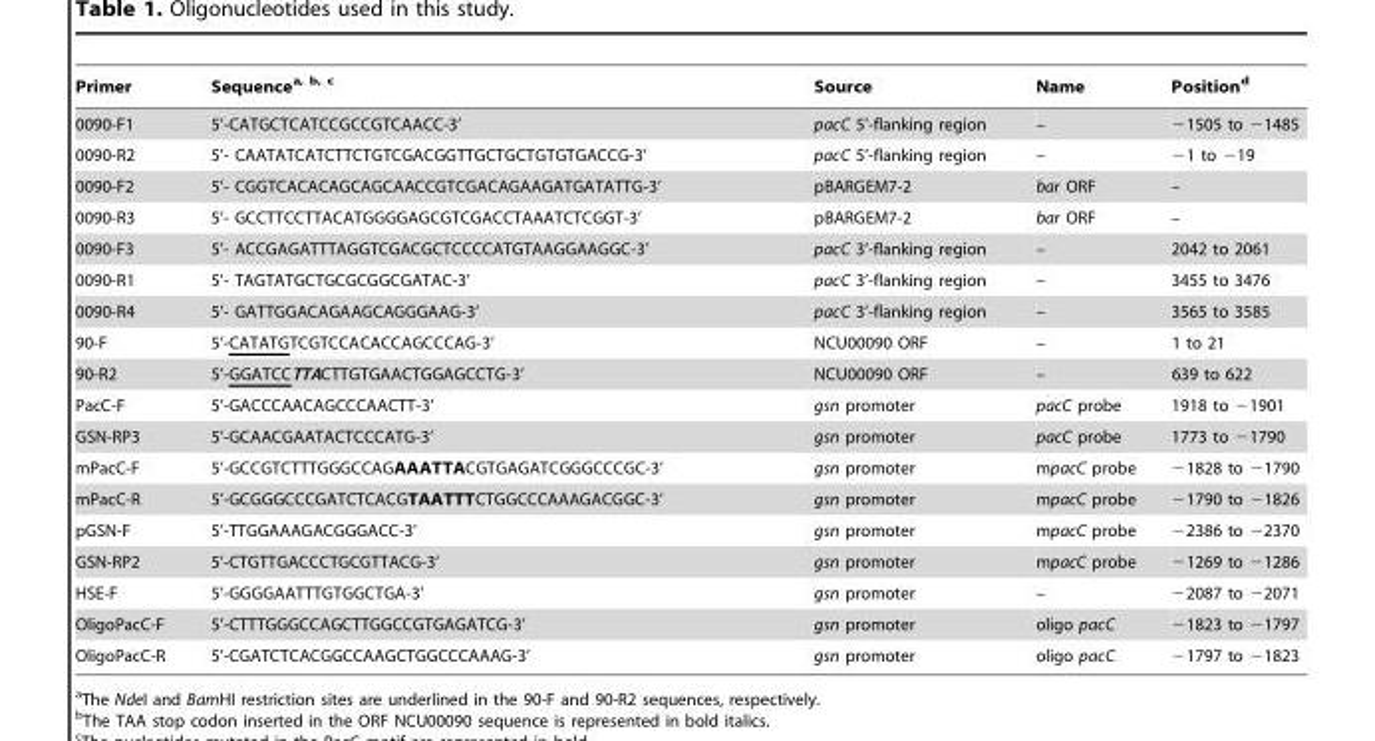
<table><thead><tr><td>Primer</td><td>Sequencea, b, c</td><td>Source</td><td>Name</td><td>Position<sup>d</sup></td></tr></thead><tbody><tr><td>0090-F1</td><td>5’-CATGCTCATCCGCCGTCAACC-3’</td><td>pacC 5’-flanking region</td><td>–</td><td>−1505 to −1485</td></tr><tr><td>0090-R2</td><td>5’- CAATATCATCTTCTGTCGACGGTTGCTGCTGTGTGACCG-3’</td><td>pacC 5’-flanking region</td><td>–</td><td>−1 to −19</td></tr><tr><td>0090-F2</td><td>5’- CGGTCACACAGCAGCAACCGTCGACAGAAGATGATATTG-3’</td><td>pBARGEM7-2</td><td>bar ORF</td><td>–</td></tr><tr><td>0090-R3</td><td>5’- GCCTTCCTTACATGGGGAGCGTCGACCTAAATCTCGGT-3’</td><td>pBARGEM7-2</td><td>bar ORF</td><td>–</td></tr><tr><td>0090-F3</td><td>5’- ACCGAGATTTAGGTCGACGCTCCCCATGTAAGGAAGGC-3’</td><td>pacC 3’-flanking region</td><td>–</td><td>2042 to 2061</td></tr><tr><td>0090-R1</td><td>5’- TAGTATGCTGCGCGGCGATAC-3’</td><td>pacC 3’-flanking region</td><td>–</td><td>3455 to 3476</td></tr><tr><td>0090-R4</td><td>5’- GATTGGACAGAAGCAGGGAAG-3’</td><td>pacC 3’-flanking region</td><td>–</td><td>3565 to 3585</td></tr><tr><td>90-F</td><td>5’-CATATGTCGTCCACACCAGCCCAG-3’</td><td>NCU00090 ORF</td><td>–</td><td>1 to 21</td></tr><tr><td>90-R2</td><td>5’-GGATCCTTACTTGTGAACTGGAGCCTG-3’</td><td>NCU00090 ORF</td><td>–</td><td>639 to 622</td></tr><tr><td>PacC-F</td><td>5’-GACCCAACAGCCCAACTT-3’</td><td>gsn promoter</td><td>pacC probe</td><td>1918 to −1901</td></tr><tr><td>GSN-RP3</td><td>5’-GCAACGAATACTCCCATG-3’</td><td>gsn promoter</td><td>pacC probe</td><td>1773 to −1790</td></tr><tr><td>mPacC-F</td><td>5’-GCCGTCTTTGGGCCAGAAATTACGTGAGATCGGGCCCGC-3’</td><td>gsn promoter</td><td>mpacC probe</td><td>−1828 to −1790</td></tr><tr><td>mPacC-R</td><td>5’-GCGGGCCCGATCTCACGTAATTTCTGGCCCAAAGACGGC-3’</td><td>gsn promoter</td><td>mpacC probe</td><td>−1790 to −1826</td></tr><tr><td>pGSN-F</td><td>5’-TTGGAAAGACGGGACC-3’</td><td>gsn promoter</td><td>mpacC probe</td><td>−2386 to −2370</td></tr><tr><td>GSN-RP2</td><td>5’-CTGTTGACCCTGCGTTACG-3’</td><td>gsn promoter</td><td>mpacC probe</td><td>−1269 to −1286</td></tr><tr><td>HSE-F</td><td>5’-GGGGAATTTGTGGCTGA-3’</td><td>gsn promoter</td><td>–</td><td>−2087 to −2071</td></tr><tr><td>OligoPacC-F</td><td>5’-CTTTGGGCCAGCTTGGCCGTGAGATCG-3’</td><td>gsn promoter</td><td>oligo pacC</td><td>−1823 to −1797</td></tr><tr><td>OligoPacC-R</td><td>5’-CGATCTCACGGCCAAGCTGGCCCAAAG-3’</td><td>gsn promoter</td><td>oligo pacC</td><td>−1797 to −1823</td></tr></tbody></table>